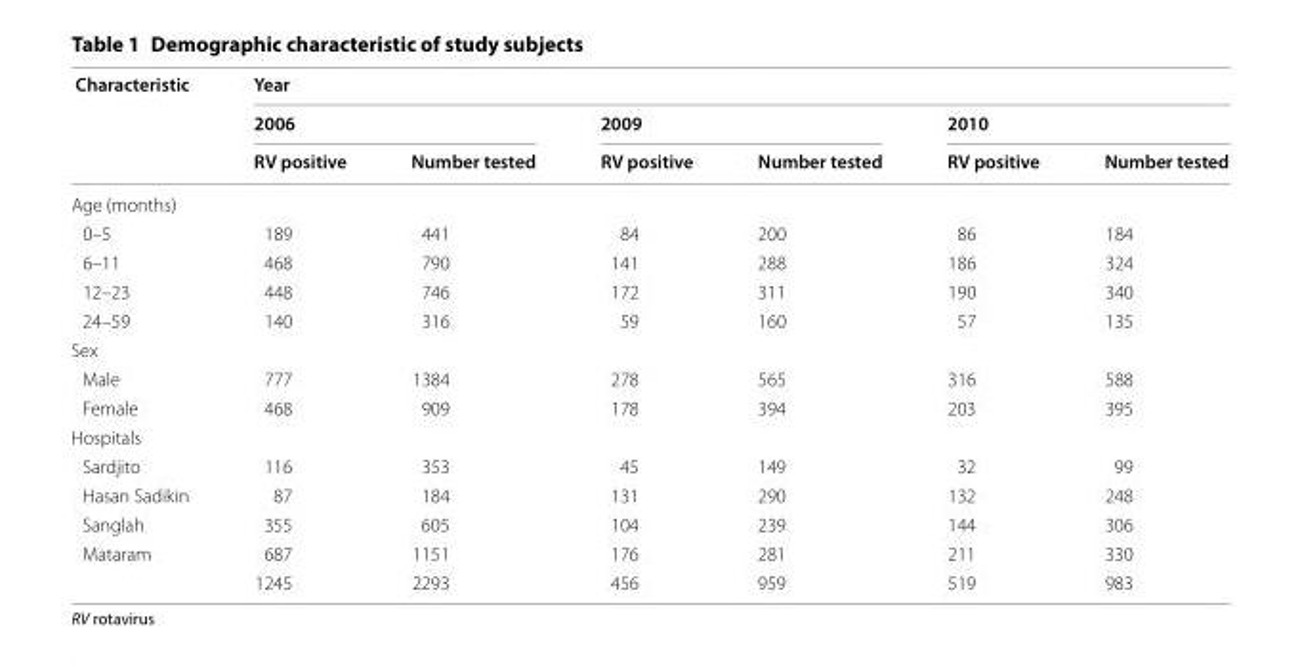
<table><thead><tr><td rowspan="3">Characteristic</td><td colspan="6">Year</td></tr><tr><td colspan="2">2006</td><td colspan="2">2009</td><td colspan="2">2010</td></tr><tr><td>RV positive</td><td>Number tested</td><td>RV positive</td><td>Number tested</td><td>RV positive</td><td>Number tested</td></tr></thead><tbody><tr><td colspan="7">Age (months)</td></tr><tr><td>0–5</td><td>189</td><td>441</td><td>84</td><td>200</td><td>86</td><td>184</td></tr><tr><td>6–11</td><td>468</td><td>790</td><td>141</td><td>288</td><td>186</td><td>324</td></tr><tr><td>12–23</td><td>448</td><td>746</td><td>172</td><td>311</td><td>190</td><td>340</td></tr><tr><td>24–59</td><td>140</td><td>316</td><td>59</td><td>160</td><td>57</td><td>135</td></tr><tr><td colspan="7">Sex</td></tr><tr><td>Male</td><td>777</td><td>1384</td><td>278</td><td>565</td><td>316</td><td>588</td></tr><tr><td>Female</td><td>468</td><td>909</td><td>178</td><td>394</td><td>203</td><td>395</td></tr><tr><td colspan="7">Hospitals</td></tr><tr><td>Sardjito</td><td>116</td><td>353</td><td>45</td><td>149</td><td>32</td><td>99</td></tr><tr><td>Hasan Sadikin</td><td>87</td><td>184</td><td>131</td><td>290</td><td>132</td><td>248</td></tr><tr><td>Sanglah</td><td>355</td><td>605</td><td>104</td><td>239</td><td>144</td><td>306</td></tr><tr><td rowspan="2">Mataram</td><td>687</td><td>1151</td><td>176</td><td>281</td><td>211</td><td>330</td></tr><tr><td>1245</td><td>2293</td><td>456</td><td>959</td><td>519</td><td>983</td></tr></tbody></table>